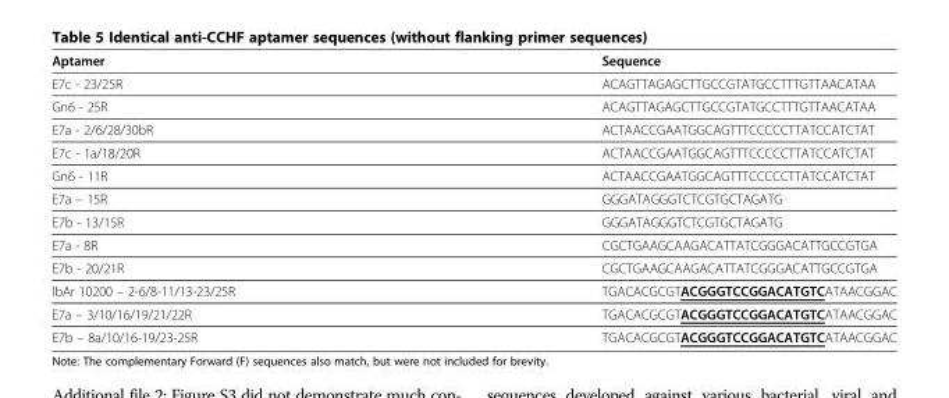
<table><thead><tr><td>Aptamer</td><td>Sequence</td></tr></thead><tbody><tr><td>E7c - 23/25R</td><td>ACAGTTAGAGCTTGCCGTATGCCTTTGTTAACATAA</td></tr><tr><td>Gn6 - 25R</td><td>ACAGTTAGAGCTTGCCGTATGCCTTTGTTAACATAA</td></tr><tr><td>E7a - 2/6/28/30bR</td><td>ACTAACCGAATGGCAGTTTCCCCCTTATCCATCTAT</td></tr><tr><td>E7c - 1a/18/20R</td><td>ACTAACCGAATGGCAGTTTCCCCCTTATCCATCTAT</td></tr><tr><td>Gn6 - 11R</td><td>ACTAACCGAATGGCAGTTTCCCCCTTATCCATCTAT</td></tr><tr><td>E7a – 15R</td><td>GGGATAGGGTCTCGTGCTAGATG</td></tr><tr><td>E7b - 13/15R</td><td>GGGATAGGGTCTCGTGCTAGATG</td></tr><tr><td>E7a - 8R</td><td>CGCTGAAGCAAGACATTATCGGGACATTGCCGTGA</td></tr><tr><td>E7b - 20/21R</td><td>CGCTGAAGCAAGACATTATCGGGACATTGCCGTGA</td></tr><tr><td>IbAr 10200 – 2-6/8-11/13-23/25R</td><td>TGACACGCGTACGGGTCCGGACATGTCATAACGGAC</td></tr><tr><td>E7a – 3/10/16/19/21/22R</td><td>TGACACGCGTACGGGTCCGGACATGTCATAACGGAC</td></tr><tr><td>E7b – 8a/10/16-19/23-25R</td><td>TGACACGCGTACGGGTCCGGACATGTCATAACGGAC</td></tr></tbody></table>